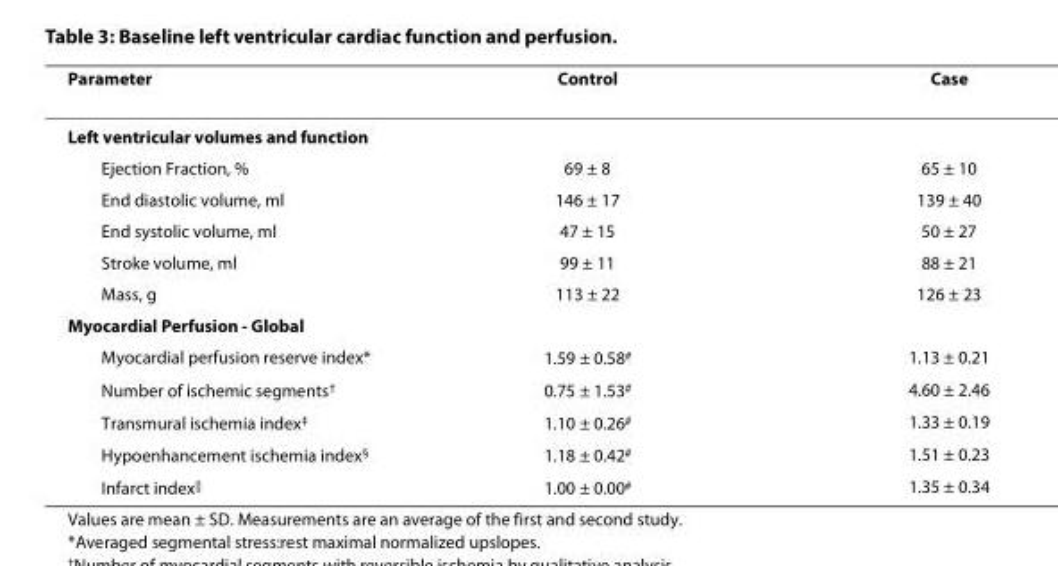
<table><thead><tr><td>Parameter</td><td>Control</td><td>Case</td></tr></thead><tbody><tr><td colspan="3">Left ventricular volumes and function</td></tr><tr><td>Ejection Fraction, %</td><td>69 ± 8</td><td>65 ± 10</td></tr><tr><td>End diastolic volume, ml</td><td>146 ± 17</td><td>139 ± 40</td></tr><tr><td>End systolic volume, ml</td><td>47 ± 15</td><td>50 ± 27</td></tr><tr><td>Stroke volume, ml</td><td>99 ± 11</td><td>88 ± 21</td></tr><tr><td>Mass, g</td><td>113 ± 22</td><td>126 ± 23</td></tr><tr><td colspan="3">Myocardial Perfusion - Global</td></tr><tr><td>Myocardial perfusion reserve index*</td><td>1.59 ± 0.58<sup>#</sup></td><td>1.13 ± 0.21</td></tr><tr><td>Number of ischemic segments<sup>†</sup></td><td>0.75 ± 1.53<sup>#</sup></td><td>4.60 ± 2.46</td></tr><tr><td>Transmural ischemia index<sup>‡</sup></td><td>1.10 ± 0.26<sup>#</sup></td><td>1.33 ± 0.19</td></tr><tr><td>Hypoenhancement ischemia index<sup>§</sup></td><td>1.18 ± 0.42<sup>#</sup></td><td>1.51 ± 0.23</td></tr><tr><td>Infarct index<sup>||</sup></td><td>1.00 ± 0.00<sup>#</sup></td><td>1.35 ± 0.34</td></tr></tbody></table>